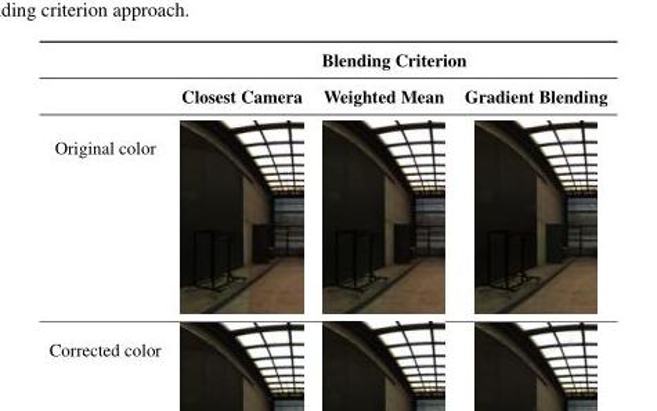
<table><thead><tr><td rowspan="2"></td><td colspan="3">Blending Criterion</td></tr><tr><td>Closest Camera</td><td>Weighted Mean</td><td>Gradient Blending</td></tr></thead><tbody><tr><td colspan="4">Original color</td></tr><tr><td>Corrected color</td><td></td><td></td><td></td></tr></tbody></table>